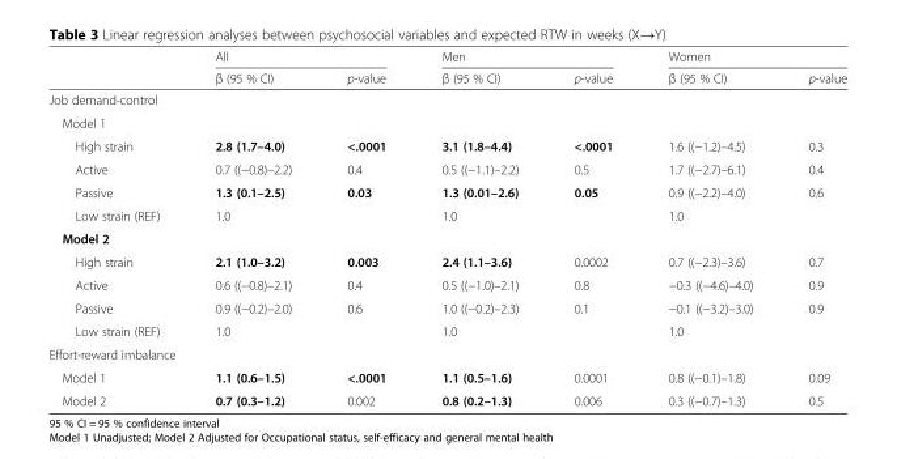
<table><thead><tr><td rowspan="2"></td><td colspan="2">All</td><td colspan="2">Men</td><td colspan="2">Women</td></tr><tr><td>β (95 % CI)</td><td>p-value</td><td>β (95 % CI)</td><td>p-value</td><td>β (95 % CI)</td><td>p-value</td></tr></thead><tbody><tr><td colspan="7">Job demand-control</td></tr><tr><td colspan="7">Model 1</td></tr><tr><td>High strain</td><td>2.8 (1.7–4.0)</td><td>&lt;.0001</td><td>3.1 (1.8–4.4)</td><td>&lt;.0001</td><td>1.6 ((−1.2)–4.5)</td><td>0.3</td></tr><tr><td>Active</td><td>0.7 ((−0.8)–2.2)</td><td>0.4</td><td>0.5 ((−1.1)–2.2)</td><td>0.5</td><td>1.7 ((−2.7)–6.1)</td><td>0.4</td></tr><tr><td>Passive</td><td>1.3 (0.1–2.5)</td><td>0.03</td><td>1.3 (0.01–2.6)</td><td>0.05</td><td>0.9 ((−2.2)–4.0)</td><td>0.6</td></tr><tr><td>Low strain (REF)</td><td>1.0</td><td></td><td>1.0</td><td></td><td>1.0</td><td></td></tr><tr><td colspan="7">Model 2</td></tr><tr><td>High strain</td><td>2.1 (1.0–3.2)</td><td>0.003</td><td>2.4 (1.1–3.6)</td><td>0.0002</td><td>0.7 ((−2.3)–3.6)</td><td>0.7</td></tr><tr><td>Active</td><td>0.6 ((−0.8)–2.1)</td><td>0.4</td><td>0.5 ((−1.0)–2.1)</td><td>0.8</td><td>−0.3 ((−4.6)–4.0)</td><td>0.9</td></tr><tr><td>Passive</td><td>0.9 ((−0.2)–2.0)</td><td>0.6</td><td>1.0 ((−0.2)–2.3)</td><td>0.1</td><td>−0.1 ((−3.2)–3.0)</td><td>0.9</td></tr><tr><td>Low strain (REF)</td><td>1.0</td><td></td><td>1.0</td><td></td><td>1.0</td><td></td></tr><tr><td colspan="7">Effort-reward imbalance</td></tr><tr><td>Model 1</td><td>1.1 (0.6–1.5)</td><td>&lt;.0001</td><td>1.1 (0.5–1.6)</td><td>0.0001</td><td>0.8 ((−0.1)–1.8)</td><td>0.09</td></tr><tr><td>Model 2</td><td>0.7 (0.3–1.2)</td><td>0.002</td><td>0.8 (0.2–1.3)</td><td>0.006</td><td>0.3 ((−0.7)–1.3)</td><td>0.5</td></tr></tbody></table>